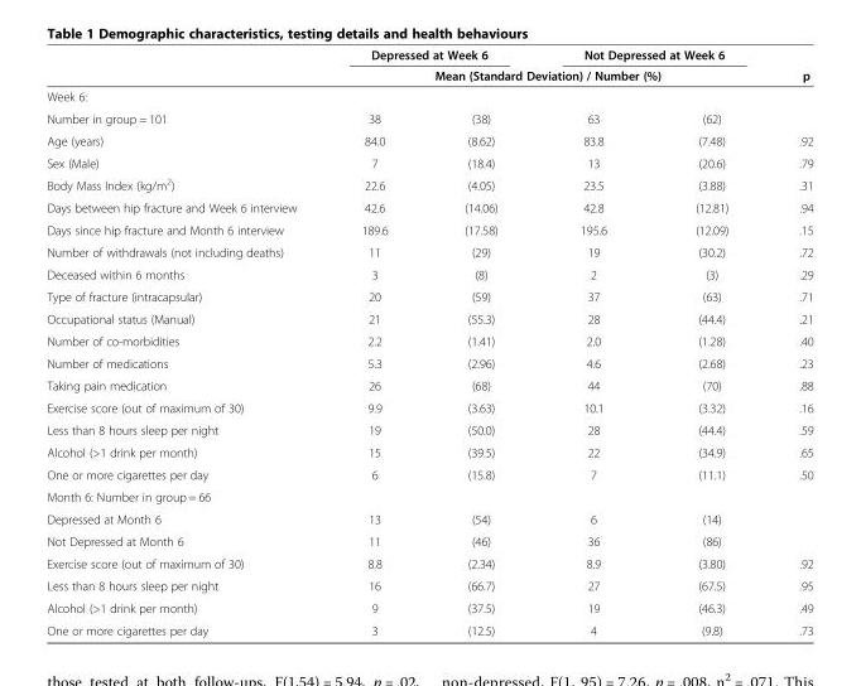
<table><thead><tr><td rowspan="3">Week 6:</td><td colspan="2">Depressed at Week 6</td><td colspan="2">Not Depressed at Week 6</td><td rowspan="3">p</td></tr><tr><td colspan="4">Mean (Standard Deviation) / Number (%)</td></tr><tr><td></td><td></td><td></td><td></td></tr></thead><tbody><tr><td>Number in group = 101</td><td>38</td><td>(38)</td><td>63</td><td>(62)</td><td></td></tr><tr><td>Age (years)</td><td>84.0</td><td>(8.62)</td><td>83.8</td><td>(7.48)</td><td>.92</td></tr><tr><td>Sex (Male)</td><td>7</td><td>(18.4)</td><td>13</td><td>(20.6)</td><td>.79</td></tr><tr><td>Body Mass Index (kg/m<sup>2</sup>)</td><td>22.6</td><td>(4.05)</td><td>23.5</td><td>(3.88)</td><td>.31</td></tr><tr><td>Days between hip fracture and Week 6 interview</td><td>42.6</td><td>(14.06)</td><td>42.8</td><td>(12.81)</td><td>.94</td></tr><tr><td>Days since hip fracture and Month 6 interview</td><td>189.6</td><td>(17.58)</td><td>195.6</td><td>(12.09)</td><td>.15</td></tr><tr><td>Number of withdrawals (not including deaths)</td><td>11</td><td>(29)</td><td>19</td><td>(30.2)</td><td>.72</td></tr><tr><td>Deceased within 6 months</td><td>3</td><td>(8)</td><td>2</td><td>(3)</td><td>.29</td></tr><tr><td>Type of fracture (intracapsular)</td><td>20</td><td>(59)</td><td>37</td><td>(63)</td><td>.71</td></tr><tr><td>Occupational status (Manual)</td><td>21</td><td>(55.3)</td><td>28</td><td>(44.4)</td><td>.21</td></tr><tr><td>Number of co-morbidities</td><td>2.2</td><td>(1.41)</td><td>2.0</td><td>(1.28)</td><td>.40</td></tr><tr><td>Number of medications</td><td>5.3</td><td>(2.96)</td><td>4.6</td><td>(2.68)</td><td>.23</td></tr><tr><td>Taking pain medication</td><td>26</td><td>(68)</td><td>44</td><td>(70)</td><td>.88</td></tr><tr><td>Exercise score (out of maximum of 30)</td><td>9.9</td><td>(3.63)</td><td>10.1</td><td>(3.32)</td><td>.16</td></tr><tr><td>Less than 8 hours sleep per night</td><td>19</td><td>(50.0)</td><td>28</td><td>(44.4)</td><td>.59</td></tr><tr><td>Alcohol (&gt;1 drink per month)</td><td>15</td><td>(39.5)</td><td>22</td><td>(34.9)</td><td>.65</td></tr><tr><td>One or more cigarettes per day</td><td>6</td><td>(15.8)</td><td>7</td><td>(11.1)</td><td>.50</td></tr><tr><td colspan="6">Month 6: Number in group = 66</td></tr><tr><td>Depressed at Month 6</td><td>13</td><td>(54)</td><td>6</td><td>(14)</td><td></td></tr><tr><td>Not Depressed at Month 6</td><td>11</td><td>(46)</td><td>36</td><td>(86)</td><td></td></tr><tr><td>Exercise score (out of maximum of 30)</td><td>8.8</td><td>(2.34)</td><td>8.9</td><td>(3.80)</td><td>.92</td></tr><tr><td>Less than 8 hours sleep per night</td><td>16</td><td>(66.7)</td><td>27</td><td>(67.5)</td><td>.95</td></tr><tr><td>Alcohol (&gt;1 drink per month)</td><td>9</td><td>(37.5)</td><td>19</td><td>(46.3)</td><td>.49</td></tr><tr><td>One or more cigarettes per day</td><td>3</td><td>(12.5)</td><td>4</td><td>(9.8)</td><td>.73</td></tr></tbody></table>